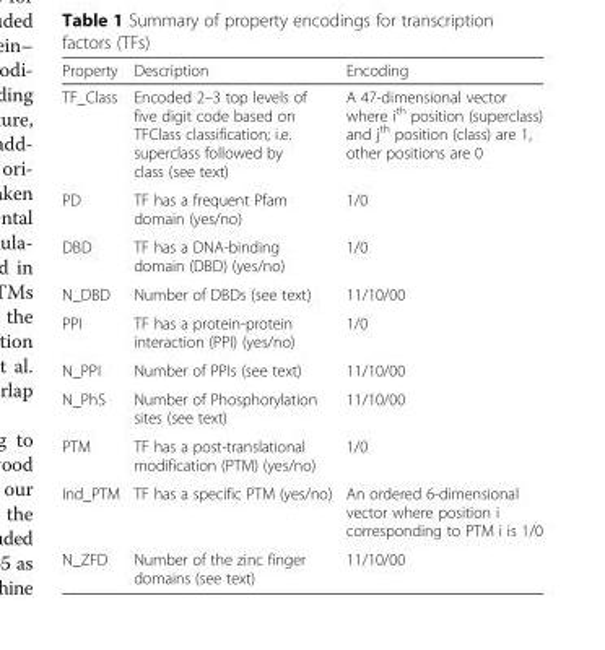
<table><thead><tr><td>Property</td><td>Description</td><td>Encoding</td></tr></thead><tbody><tr><td>TF_Class</td><td>Encoded 2–3 top levels of five digit code based on TFClass classification; i.e. superclass followed by class (see text)</td><td>A 47-dimensional vector where i<sup>th</sup> position (superclass) and j<sup>th</sup> position (class) are 1, other positions are 0</td></tr><tr><td>PD</td><td>TF has a frequent Pfam domain (yes/no)</td><td>1/0</td></tr><tr><td>DBD</td><td>TF has a DNA-binding domain (DBD) (yes/no)</td><td>1/0</td></tr><tr><td>N_DBD</td><td>Number of DBDs (see text)</td><td>11/10/00</td></tr><tr><td>PPI</td><td>TF has a protein-protein interaction (PPI) (yes/no)</td><td>1/0</td></tr><tr><td>N_PPI</td><td>Number of PPIs (see text)</td><td>11/10/00</td></tr><tr><td>N_PhS</td><td>Number of Phosphorylation sites (see text)</td><td>11/10/00</td></tr><tr><td>PTM</td><td>TF has a post-translational modification (PTM) (yes/no)</td><td>1/0</td></tr><tr><td>Ind_PTM</td><td>TF has a specific PTM (yes/no)</td><td>An ordered 6-dimensional vector where position i corresponding to PTM i is 1/0</td></tr><tr><td>N_ZFD</td><td>Number of the zinc finger domains (see text)</td><td>11/10/00</td></tr></tbody></table>